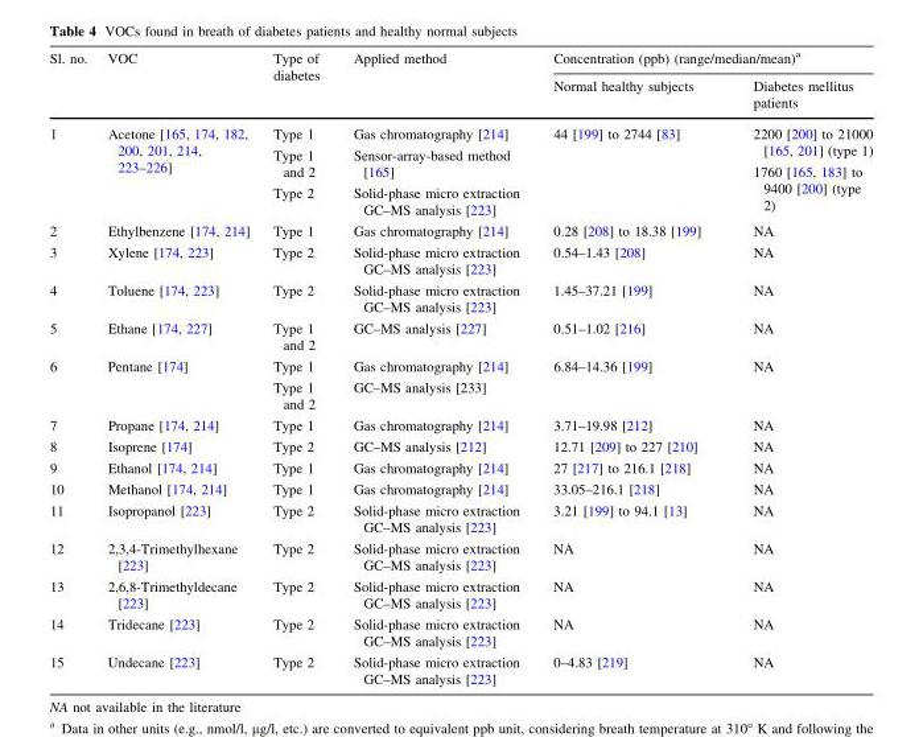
<table><thead><tr><td rowspan="2">Sl. no.</td><td rowspan="2">VOC</td><td rowspan="2">Type of diabetes</td><td rowspan="2">Applied method</td><td colspan="2">Concentration (ppb) (range/median/mean)<sup>a</sup></td></tr><tr><td>Normal healthy subjects</td><td>Diabetes mellitus patients</td></tr></thead><tbody><tr><td>1</td><td>Acetone [165, 174, 182, 200, 201, 214, 223–226]</td><td>Type 1 Type 1 and 2 Type 2</td><td>Gas chromatography [214] Sensor-array-based method [165] Solid-phase micro extraction GC–MS analysis [223]</td><td>44 [199] to 2744 [83]</td><td>2200 [200] to 21000 [165, 201] (type 1) 1760 [165, 183] to 9400 [200] (type 2)</td></tr><tr><td>2</td><td>Ethylbenzene [174, 214]</td><td>Type 1</td><td>Gas chromatography [214]</td><td>0.28 [208] to 18.38 [199]</td><td>NA</td></tr><tr><td>3</td><td>Xylene [174, 223]</td><td>Type 2</td><td>Solid-phase micro extraction GC–MS analysis [223]</td><td>0.54–1.43 [208]</td><td>NA</td></tr><tr><td>4</td><td>Toluene [174, 223]</td><td>Type 2</td><td>Solid-phase micro extraction GC–MS analysis [223]</td><td>1.45–37.21 [199]</td><td>NA</td></tr><tr><td>5</td><td>Ethane [174, 227]</td><td>Type 1 and 2</td><td>GC–MS analysis [227]</td><td>0.51–1.02 [216]</td><td>NA</td></tr><tr><td>6</td><td>Pentane [174]</td><td>Type 1 Type 1 and 2</td><td>Gas chromatography [214] GC–MS analysis [233]</td><td>6.84–14.36 [199]</td><td>NA</td></tr><tr><td>7</td><td>Propane [174, 214]</td><td>Type 1</td><td>Gas chromatography [214]</td><td>3.71–19.98 [212]</td><td>NA</td></tr><tr><td>8</td><td>Isoprene [174]</td><td>Type 2</td><td>GC–MS analysis [212]</td><td>12.71 [209] to 227 [210]</td><td>NA</td></tr><tr><td>9</td><td>Ethanol [174, 214]</td><td>Type 1</td><td>Gas chromatography [214]</td><td>27 [217] to 216.1 [218]</td><td>NA</td></tr><tr><td>10</td><td>Methanol [174, 214]</td><td>Type 1</td><td>Gas chromatography [214]</td><td>33.05–216.1 [218]</td><td>NA</td></tr><tr><td>11</td><td>Isopropanol [223]</td><td>Type 2</td><td>Solid-phase micro extraction GC–MS analysis [223]</td><td>3.21 [199] to 94.1 [13]</td><td>NA</td></tr><tr><td>12</td><td>2,3,4-Trimethylhexane [223]</td><td>Type 2</td><td>Solid-phase micro extraction GC–MS analysis [223]</td><td>NA</td><td>NA</td></tr><tr><td>13</td><td>2,6,8-Trimethyldecane [223]</td><td>Type 2</td><td>Solid-phase micro extraction GC–MS analysis [223]</td><td>NA</td><td>NA</td></tr><tr><td>14</td><td>Tridecane [223]</td><td>Type 2</td><td>Solid-phase micro extraction GC–MS analysis [223]</td><td>NA</td><td>NA</td></tr><tr><td>15</td><td>Undecane [223]</td><td>Type 2</td><td>Solid-phase micro extraction GC–MS analysis [223]</td><td>0–4.83 [219]</td><td>NA</td></tr></tbody></table>